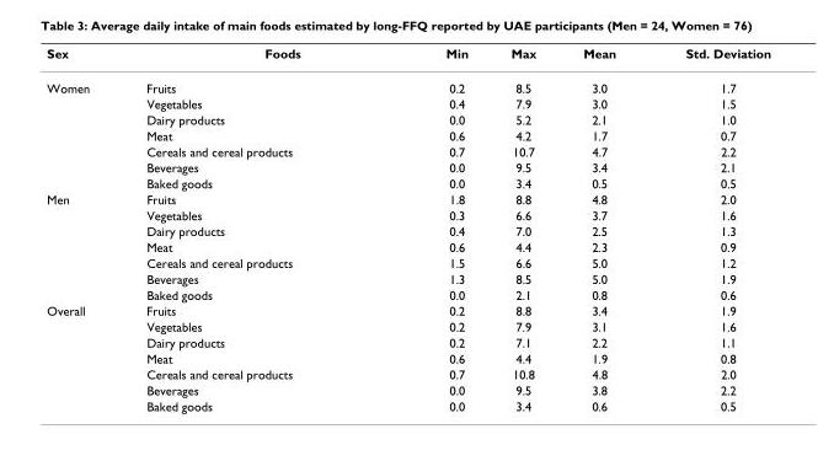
<table><thead><tr><td>Sex</td><td>Foods</td><td>Min</td><td>Max</td><td>Mean</td><td>Std. Deviation</td></tr></thead><tbody><tr><td rowspan="7">Women</td><td>Fruits</td><td>0.2</td><td>8.5</td><td>3.0</td><td>1.7</td></tr><tr><td>Vegetables</td><td>0.4</td><td>7.9</td><td>3.0</td><td>1.5</td></tr><tr><td>Dairy products</td><td>0.0</td><td>5.2</td><td>2.1</td><td>1.0</td></tr><tr><td>Meat</td><td>0.6</td><td>4.2</td><td>1.7</td><td>0.7</td></tr><tr><td>Cereals and cereal products</td><td>0.7</td><td>10.7</td><td>4.7</td><td>2.2</td></tr><tr><td>Beverages</td><td>0.0</td><td>9.5</td><td>3.4</td><td>2.1</td></tr><tr><td>Baked goods</td><td>0.0</td><td>3.4</td><td>0.5</td><td>0.5</td></tr><tr><td rowspan="7">Men</td><td>Fruits</td><td>1.8</td><td>8.8</td><td>4.8</td><td>2.0</td></tr><tr><td>Vegetables</td><td>0.3</td><td>6.6</td><td>3.7</td><td>1.6</td></tr><tr><td>Dairy products</td><td>0.4</td><td>7.0</td><td>2.5</td><td>1.3</td></tr><tr><td>Meat</td><td>0.6</td><td>4.4</td><td>2.3</td><td>0.9</td></tr><tr><td>Cereals and cereal products</td><td>1.5</td><td>6.6</td><td>5.0</td><td>1.2</td></tr><tr><td>Beverages</td><td>1.3</td><td>8.5</td><td>5.0</td><td>1.9</td></tr><tr><td>Baked goods</td><td>0.0</td><td>2.1</td><td>0.8</td><td>0.6</td></tr><tr><td rowspan="7">Overall</td><td>Fruits</td><td>0.2</td><td>8.8</td><td>3.4</td><td>1.9</td></tr><tr><td>Vegetables</td><td>0.2</td><td>7.9</td><td>3.1</td><td>1.6</td></tr><tr><td>Dairy products</td><td>0.2</td><td>7.1</td><td>2.2</td><td>1.1</td></tr><tr><td>Meat</td><td>0.6</td><td>4.4</td><td>1.9</td><td>0.8</td></tr><tr><td>Cereals and cereal products</td><td>0.7</td><td>10.8</td><td>4.8</td><td>2.0</td></tr><tr><td>Beverages</td><td>0.0</td><td>9.5</td><td>3.8</td><td>2.2</td></tr><tr><td>Baked goods</td><td>0.0</td><td>3.4</td><td>0.6</td><td>0.5</td></tr></tbody></table>